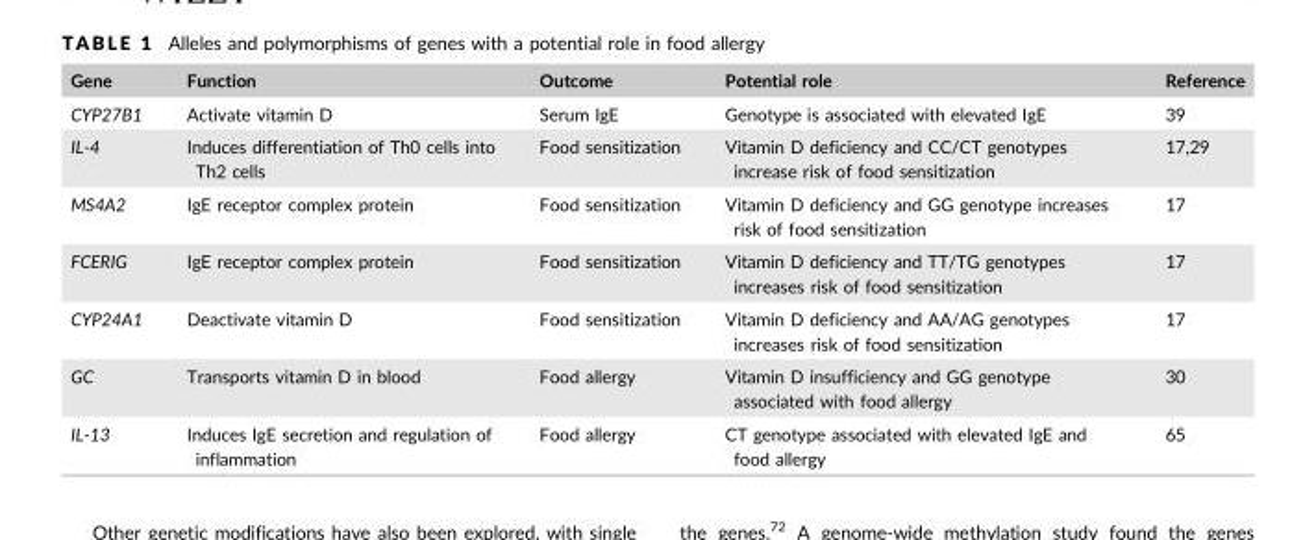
<table><thead><tr><td>Gene</td><td>Function</td><td>Outcome</td><td>Potential role</td><td>Reference</td></tr></thead><tbody><tr><td>CYP27B1</td><td>Activate vitamin D</td><td>Serum IgE</td><td>Genotype is associated with elevated IgE</td><td>39</td></tr><tr><td>IL-4</td><td>Induces differentiation of Th0 cells into Th2 cells</td><td>Food sensitization</td><td>Vitamin D deficiency and CC/CT genotypes increase risk of food sensitization</td><td>17,29</td></tr><tr><td>MS4A2</td><td>IgE receptor complex protein</td><td>Food sensitization</td><td>Vitamin D deficiency and GG genotype increases risk of food sensitization</td><td>17</td></tr><tr><td>FCERIG</td><td>IgE receptor complex protein</td><td>Food sensitization</td><td>Vitamin D deficiency and TT/TG genotypes increases risk of food sensitization</td><td>17</td></tr><tr><td>CYP24A1</td><td>Deactivate vitamin D</td><td>Food sensitization</td><td>Vitamin D deficiency and AA/AG genotypes increases risk of food sensitization</td><td>17</td></tr><tr><td>GC</td><td>Transports vitamin D in blood</td><td>Food allergy</td><td>Vitamin D insufficiency and GG genotype associated with food allergy</td><td>30</td></tr><tr><td>IL-13</td><td>Induces IgE secretion and regulation of inflammation</td><td>Food allergy</td><td>CT genotype associated with elevated IgE and food allergy</td><td>65</td></tr></tbody></table>